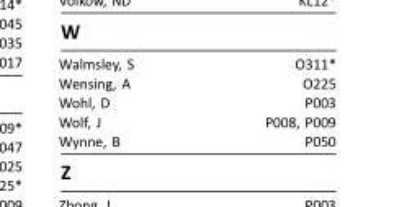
<table><tbody><tr><td>Walmsley, S</td><td>O311*</td></tr><tr><td>Wensing, A</td><td>O225</td></tr><tr><td>Wohl, D</td><td>P003</td></tr><tr><td>Wolf, J</td><td>P008, P009</td></tr><tr><td>Wynne, B</td><td>P050</td></tr></tbody></table>